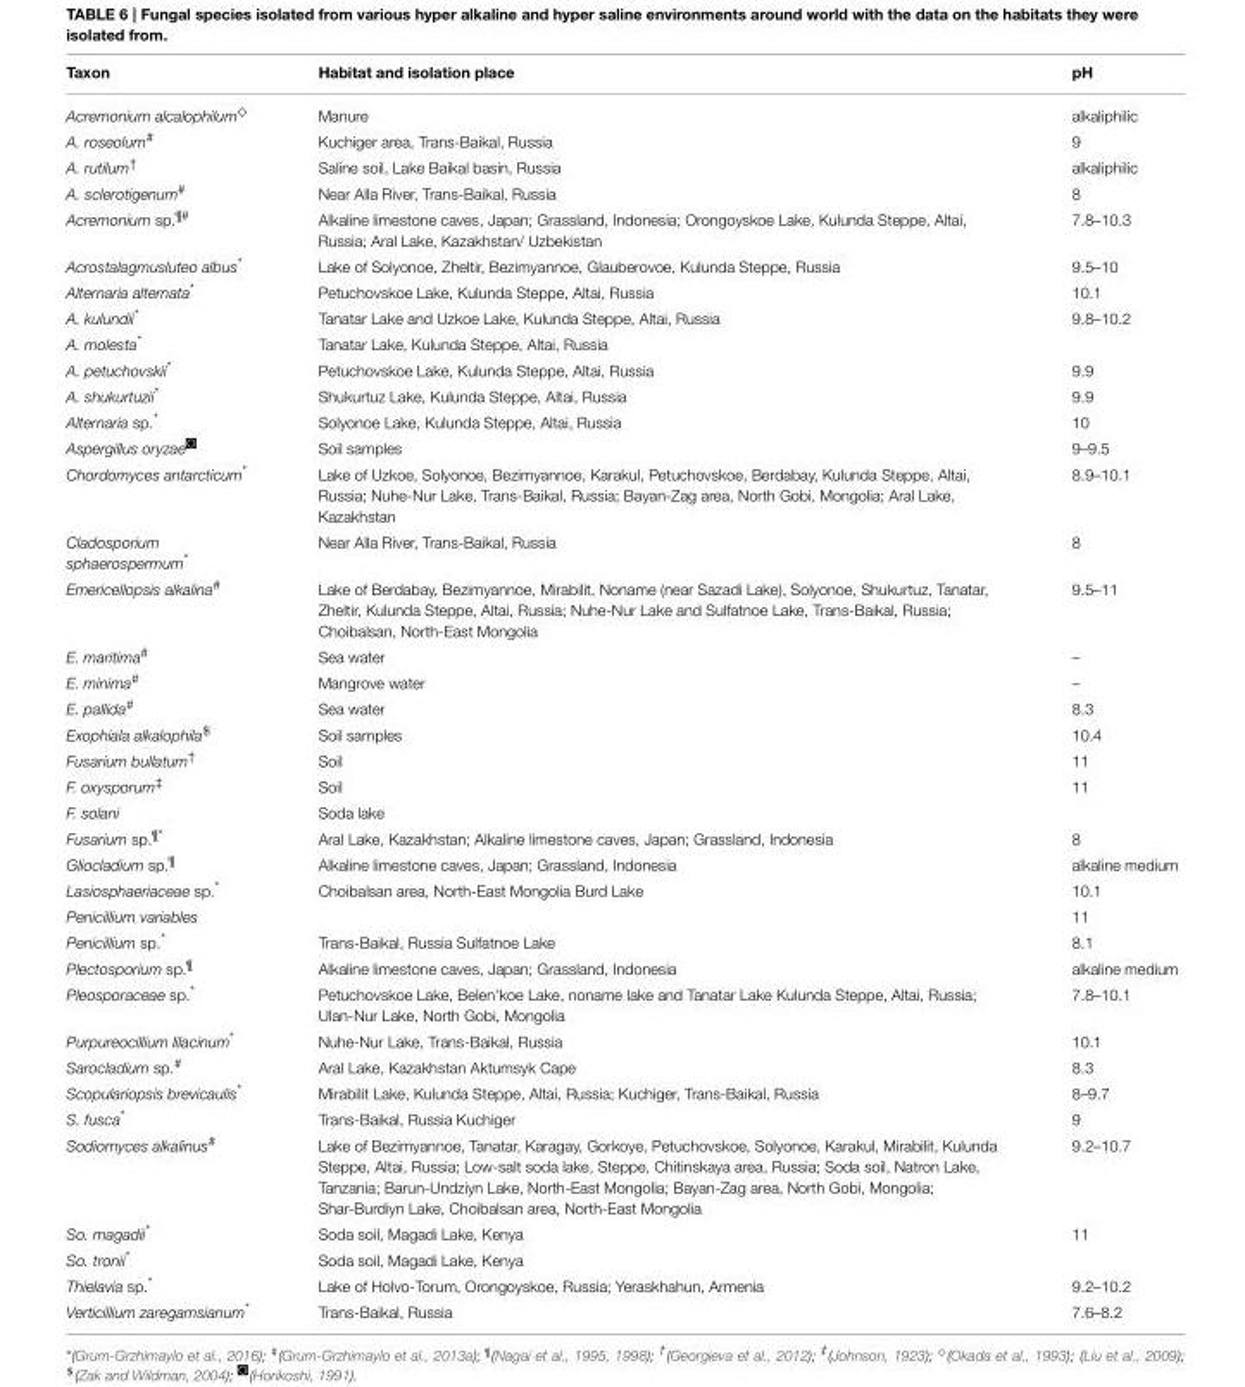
<table><thead><tr><td>Taxon</td><td>Habitat and isolation place</td><td>pH</td></tr></thead><tbody><tr><td>Acremonium alcalophilum♦</td><td>Manure</td><td>alkaliphilic</td></tr><tr><td>A. roseolum<sup>#</sup></td><td>Kuchiger area, Trans-Baikal, Russia</td><td>9</td></tr><tr><td>A. rutilum<sup>†</sup></td><td>Saline soil, Lake Baikal basin, Russia</td><td>alkaliphilic</td></tr><tr><td>A. sclerotigenum<sup>#</sup></td><td>Near Alla River, Trans-Baikal, Russia</td><td>8</td></tr><tr><td>Acremonium sp.<sup>¶#</sup></td><td>Alkaline limestone caves, Japan; Grassland, Indonesia; Orongoyskoe Lake, Kulunda Steppe, Altai, Russia; Aral Lake, Kazakhstan/ Uzbekistan</td><td>7.8–10.3</td></tr><tr><td>Acrostalagmusluteo albus*</td><td>Lake of Solyonoe, Zheltir, Bezimyannoe, Glauberovoe, Kulunda Steppe, Russia</td><td>9.5–10</td></tr><tr><td>Alternaria alternata*</td><td>Petuchovskoe Lake, Kulunda Steppe, Altai, Russia</td><td>10.1</td></tr><tr><td>A. kulundii*</td><td>Tanatar Lake and Uzkoe Lake, Kulunda Steppe, Altai, Russia</td><td>9.8–10.2</td></tr><tr><td>A. molesta*</td><td>Tanatar Lake, Kulunda Steppe, Altai, Russia</td><td></td></tr><tr><td>A. petuchovskii*</td><td>Petuchovskoe Lake, Kulunda Steppe, Altai, Russia</td><td>9.9</td></tr><tr><td>A. shukurtuzii*</td><td>Shukurtuz Lake, Kulunda Steppe, Altai, Russia</td><td>9.9</td></tr><tr><td>Alternaria sp.*</td><td>Solyonoe Lake, Kulunda Steppe, Altai, Russia</td><td>10</td></tr><tr><td>Aspergillus oryzae</td><td>Soil samples</td><td>9–9.5</td></tr><tr><td>Chordomyces antarcticum*</td><td>Lake of Uzkoe, Solyonoe, Bezimyannoe, Karakul, Petuchovskoe, Berdabay, Kulunda Steppe, Altai, Russia; Nuhe-Nur Lake, Trans-Baikal, Russia; Bayan-Zag area, North Gobi, Mongolia; Aral Lake, Kazakhstan</td><td>8.9–10.1</td></tr><tr><td>Cladosporium sphaerospermum*</td><td>Near Alla River, Trans-Baikal, Russia</td><td>8</td></tr><tr><td>Emericellopsis alkalina<sup>#</sup></td><td>Lake of Berdabay, Bezimyannoe, Mirabilit, Noname (near Sazadi Lake), Solyonoe, Shukurtuz, Tanatar, Zheltir, Kulunda Steppe, Altai, Russia; Nuhe-Nur Lake and Sulfatnoe Lake, Trans-Baikal, Russia; Choibalsan, North-East Mongolia</td><td>9.5–11</td></tr><tr><td>E. maritima<sup>#</sup></td><td>Sea water</td><td>–</td></tr><tr><td>E. minima<sup>#</sup></td><td>Mangrove water</td><td>–</td></tr><tr><td>E. pallida<sup>#</sup></td><td>Sea water</td><td>8.3</td></tr><tr><td>Exophiala alkalophila<sup>$</sup></td><td>Soil samples</td><td>10.4</td></tr><tr><td>Fusarium bullatum<sup>†</sup></td><td>Soil</td><td>11</td></tr><tr><td>F. oxysporum<sup>‡</sup></td><td>Soil</td><td>11</td></tr><tr><td>F. solani</td><td>Soda lake</td><td></td></tr><tr><td>Fusarium sp.<sup>¶*</sup></td><td>Aral Lake, Kazakhstan; Alkaline limestone caves, Japan; Grassland, Indonesia</td><td>8</td></tr><tr><td>Gliocladium sp.<sup>¶</sup></td><td>Alkaline limestone caves, Japan; Grassland, Indonesia</td><td>alkaline medium</td></tr><tr><td>Lasiosphaeriaceae sp.*</td><td>Choibalsan area, North-East Mongolia Burd Lake</td><td>10.1</td></tr><tr><td>Penicillium variables</td><td></td><td>11</td></tr><tr><td>Penicillium sp.*</td><td>Trans-Baikal, Russia Sulfatnoe Lake</td><td>8.1</td></tr><tr><td>Plectosporium sp.<sup>¶</sup></td><td>Alkaline limestone caves, Japan; Grassland, Indonesia</td><td>alkaline medium</td></tr><tr><td>Pleosporaceae sp.*</td><td>Petuchovskoe Lake, Belen’koe Lake, noname lake and Tanatar Lake Kulunda Steppe, Altai, Russia; Ulan-Nur Lake, North Gobi, Mongolia</td><td>7.8–10.1</td></tr><tr><td>Purpureocillium lilacinum*</td><td>Nuhe-Nur Lake, Trans-Baikal, Russia</td><td>10.1</td></tr><tr><td>Sarocladium sp.<sup>#</sup></td><td>Aral Lake, Kazakhstan Aktumsyk Cape</td><td>8.3</td></tr><tr><td>Scopulariopsis brevicaulis*</td><td>Mirabilit Lake, Kulunda Steppe, Altai, Russia; Kuchiger, Trans-Baikal, Russia</td><td>8–9.7</td></tr><tr><td>S. fusca*</td><td>Trans-Baikal, Russia Kuchiger</td><td>9</td></tr><tr><td>Sodiomyces alkalinus<sup>#</sup></td><td>Lake of Bezimyannoe, Tanatar, Karagay, Gorkoye, Petuchovskoe, Solyonoe, Karakul, Mirabilit, Kulunda Steppe, Altai, Russia; Low-salt soda lake, Steppe, Chitinskaya area, Russia; Soda soil, Natron Lake, Tanzania; Barun-Undziyn Lake, North-East Mongolia; Bayan-Zag area, North Gobi, Mongolia; Shar-Burdiyn Lake, Choibalsan area, North-East Mongolia</td><td>9.2–10.7</td></tr><tr><td>So. magadii*</td><td>Soda soil, Magadi Lake, Kenya</td><td>11</td></tr><tr><td>So. tronii*</td><td>Soda soil, Magadi Lake, Kenya</td><td></td></tr><tr><td>Thielavia sp.*</td><td>Lake of Holvo-Torum, Orongoyskoe, Russia; Yeraskhahun, Armenia</td><td>9.2–10.2</td></tr><tr><td>Verticillium zaregamsianum*</td><td>Trans-Baikal, Russia</td><td>7.6–8.2</td></tr></tbody></table>